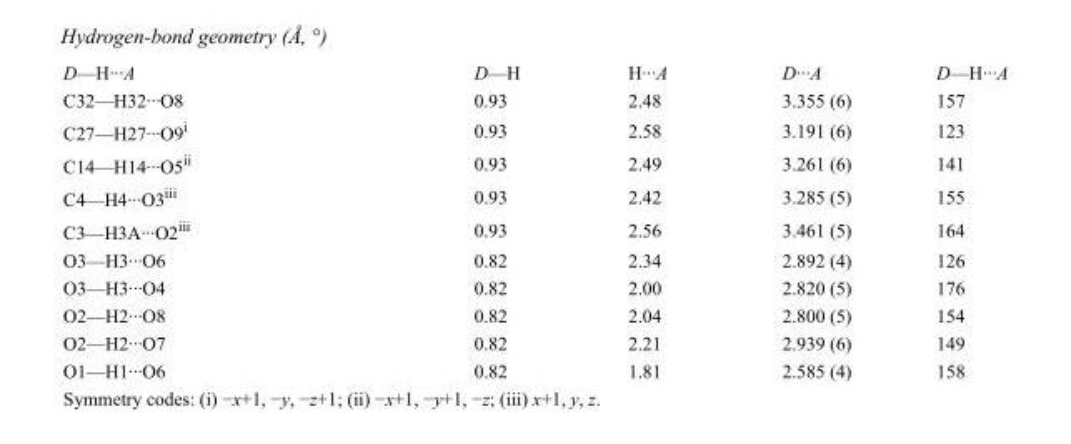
<table><tbody><tr><td>D—H···A</td><td>D—H</td><td>H···A</td><td>D···A</td><td>D—H···A</td></tr><tr><td>C32—H32···O8</td><td>0.93</td><td>2.48</td><td>3.355 (6)</td><td>157</td></tr><tr><td>C27—H27···O9<sup>i</sup></td><td>0.93</td><td>2.58</td><td>3.191 (6)</td><td>123</td></tr><tr><td>C14—H14···O5<sup>ii</sup></td><td>0.93</td><td>2.49</td><td>3.261 (6)</td><td>141</td></tr><tr><td>C4—H4···O3<sup>iii</sup></td><td>0.93</td><td>2.42</td><td>3.285 (5)</td><td>155</td></tr><tr><td>C3—H3A···O2<sup>iii</sup></td><td>0.93</td><td>2.56</td><td>3.461 (5)</td><td>164</td></tr><tr><td>O3—H3···O6</td><td>0.82</td><td>2.34</td><td>2.892 (4)</td><td>126</td></tr><tr><td>O3—H3···O4</td><td>0.82</td><td>2.00</td><td>2.820 (5)</td><td>176</td></tr><tr><td>O2—H2···O8</td><td>0.82</td><td>2.04</td><td>2.800 (5)</td><td>154</td></tr><tr><td>O2—H2···O7</td><td>0.82</td><td>2.21</td><td>2.939 (6)</td><td>149</td></tr><tr><td>O1—H1···O6</td><td>0.82</td><td>1.81</td><td>2.585 (4)</td><td>158</td></tr></tbody></table>